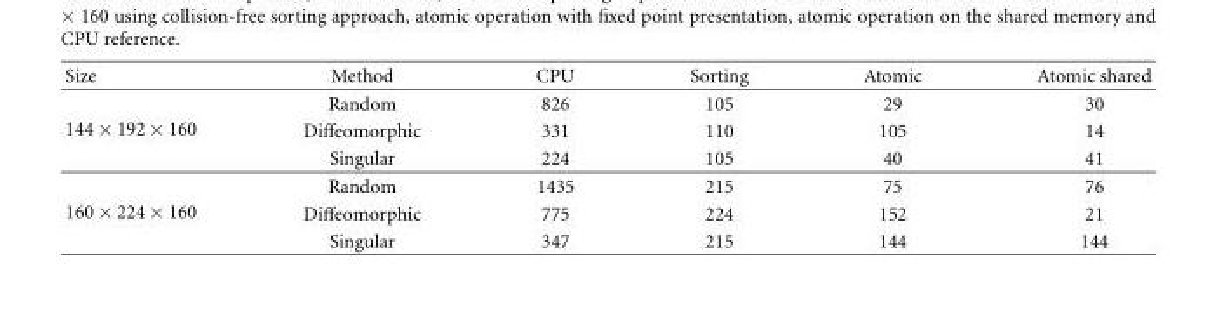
<table><thead><tr><td>Size</td><td>Method</td><td>CPU</td><td>Sorting</td><td>Atomic</td><td>Atomic shared</td></tr></thead><tbody><tr><td rowspan="3">144 × 192 × 160</td><td>Random</td><td>826</td><td>105</td><td>29</td><td>30</td></tr><tr><td>Diffeomorphic</td><td>331</td><td>110</td><td>105</td><td>14</td></tr><tr><td>Singular</td><td>224</td><td>105</td><td>40</td><td>41</td></tr><tr><td rowspan="3">160 × 224 × 160</td><td>Random</td><td>1435</td><td>215</td><td>75</td><td>76</td></tr><tr><td>Diffeomorphic</td><td>775</td><td>224</td><td>152</td><td>21</td></tr><tr><td>Singular</td><td>347</td><td>215</td><td>144</td><td>144</td></tr></tbody></table>